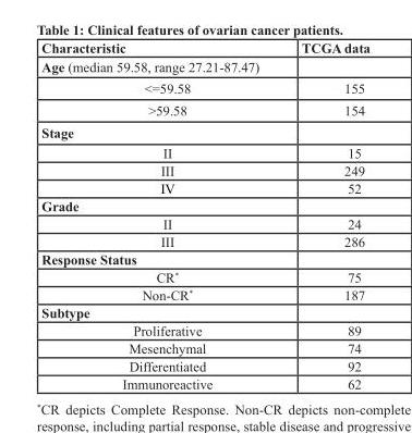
<table><thead><tr><td>Characteristic</td><td>TCGA data</td></tr></thead><tbody><tr><td colspan="2">Age (median 59.58, range 27.21-87.47)</td></tr><tr><td>&lt;=59.58</td><td>155</td></tr><tr><td>&gt;59.58</td><td>154</td></tr><tr><td colspan="2">Stage</td></tr><tr><td>II</td><td>15</td></tr><tr><td>III</td><td>249</td></tr><tr><td>IV</td><td>52</td></tr><tr><td colspan="2">Grade</td></tr><tr><td>II</td><td>24</td></tr><tr><td>III</td><td>286</td></tr><tr><td colspan="2">Response Status</td></tr><tr><td>CR*</td><td>75</td></tr><tr><td>Non-CR*</td><td>187</td></tr><tr><td colspan="2">Subtype</td></tr><tr><td>Proliferative</td><td>89</td></tr><tr><td>Mesenchymal</td><td>74</td></tr><tr><td>Differentiated</td><td>92</td></tr><tr><td>Immunoreactive</td><td>62</td></tr></tbody></table>